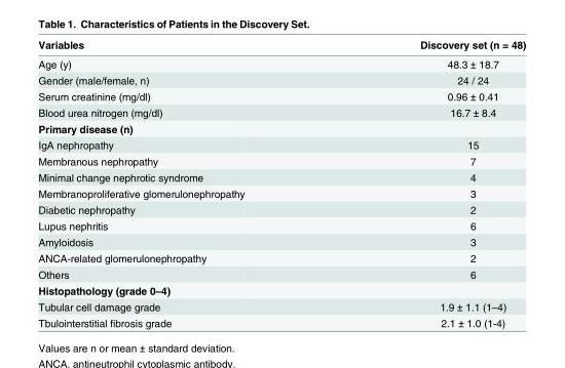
<table><thead><tr><td>Variables</td><td>Discovery set (n = 48)</td></tr></thead><tbody><tr><td>Age (y)</td><td>48.3 ± 18.7</td></tr><tr><td>Gender (male/female, n)</td><td>24 / 24</td></tr><tr><td>Serum creatinine (mg/dl)</td><td>0.96 ± 0.41</td></tr><tr><td>Blood urea nitrogen (mg/dl)</td><td>16.7 ± 8.4</td></tr><tr><td colspan="2">Primary disease (n)</td></tr><tr><td>IgA nephropathy</td><td>15</td></tr><tr><td>Membranous nephropathy</td><td>7</td></tr><tr><td>Minimal change nephrotic syndrome</td><td>4</td></tr><tr><td>Membranoproliferative glomerulonephropathy</td><td>3</td></tr><tr><td>Diabetic nephropathy</td><td>2</td></tr><tr><td>Lupus nephritis</td><td>6</td></tr><tr><td>Amyloidosis</td><td>3</td></tr><tr><td>ANCA-related glomerulonephropathy</td><td>2</td></tr><tr><td>Others</td><td>6</td></tr><tr><td colspan="2">Histopathology (grade 0–4)</td></tr><tr><td>Tubular cell damage grade</td><td>1.9 ± 1.1 (1–4)</td></tr><tr><td>Tbulointerstitial fibrosis grade</td><td>2.1 ± 1.0 (1-4)</td></tr></tbody></table>